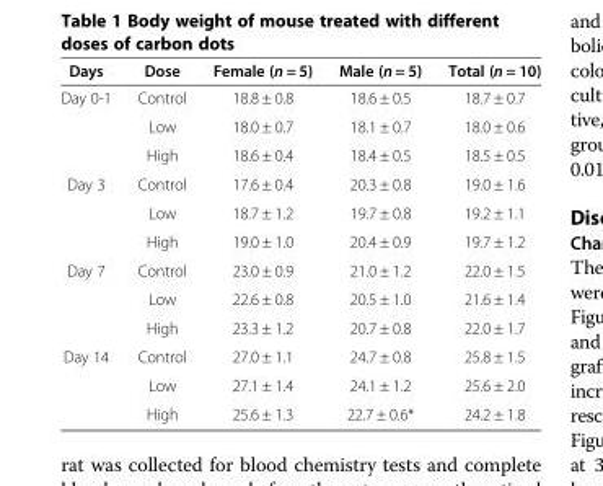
<table><thead><tr><td>Days</td><td>Dose</td><td>Female (n = 5)</td><td>Male (n = 5)</td><td>Total (n = 10)</td></tr></thead><tbody><tr><td rowspan="3">Day 0-1</td><td>Control</td><td>18.8 ± 0.8</td><td>18.6 ± 0.5</td><td>18.7 ± 0.7</td></tr><tr><td>Low</td><td>18.0 ± 0.7</td><td>18.1 ± 0.7</td><td>18.0 ± 0.6</td></tr><tr><td>High</td><td>18.6 ± 0.4</td><td>18.4 ± 0.5</td><td>18.5 ± 0.5</td></tr><tr><td rowspan="3">Day 3</td><td>Control</td><td>17.6 ± 0.4</td><td>20.3 ± 0.8</td><td>19.0 ± 1.6</td></tr><tr><td>Low</td><td>18.7 ± 1.2</td><td>19.7 ± 0.8</td><td>19.2 ± 1.1</td></tr><tr><td>High</td><td>19.0 ± 1.0</td><td>20.4 ± 0.9</td><td>19.7 ± 1.2</td></tr><tr><td rowspan="3">Day 7</td><td>Control</td><td>23.0 ± 0.9</td><td>21.0 ± 1.2</td><td>22.0 ± 1.5</td></tr><tr><td>Low</td><td>22.6 ± 0.8</td><td>20.5 ± 1.0</td><td>21.6 ± 1.4</td></tr><tr><td>High</td><td>23.3 ± 1.2</td><td>20.7 ± 0.8</td><td>22.0 ± 1.7</td></tr><tr><td rowspan="3">Day 14</td><td>Control</td><td>27.0 ± 1.1</td><td>24.7 ± 0.8</td><td>25.8 ± 1.5</td></tr><tr><td>Low</td><td>27.1 ± 1.4</td><td>24.1 ± 1.2</td><td>25.6 ± 2.0</td></tr><tr><td>High</td><td>25.6 ± 1.3</td><td>22.7 ± 0.6*</td><td>24.2 ± 1.8</td></tr></tbody></table>